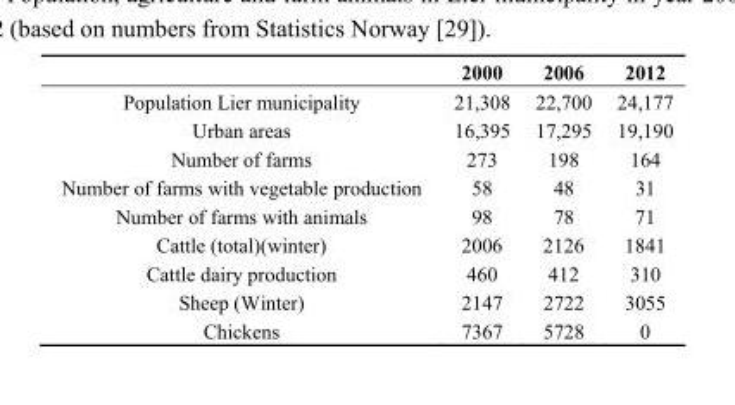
<table><thead><tr><td></td><td>2000</td><td>2006</td><td>2012</td></tr></thead><tbody><tr><td>Population Lier municipality</td><td>21,308</td><td>22,700</td><td>24,177</td></tr><tr><td>Urban areas</td><td>16,395</td><td>17,295</td><td>19,190</td></tr><tr><td>Number of farms</td><td>273</td><td>198</td><td>164</td></tr><tr><td>Number of farms with vegetable production</td><td>58</td><td>48</td><td>31</td></tr><tr><td>Number of farms with animals</td><td>98</td><td>78</td><td>71</td></tr><tr><td>Cattle (total)(winter)</td><td>2006</td><td>2126</td><td>1841</td></tr><tr><td>Cattle dairy production</td><td>460</td><td>412</td><td>310</td></tr><tr><td>Sheep (Winter)</td><td>2147</td><td>2722</td><td>3055</td></tr><tr><td>Chickens</td><td>7367</td><td>5728</td><td>0</td></tr></tbody></table>